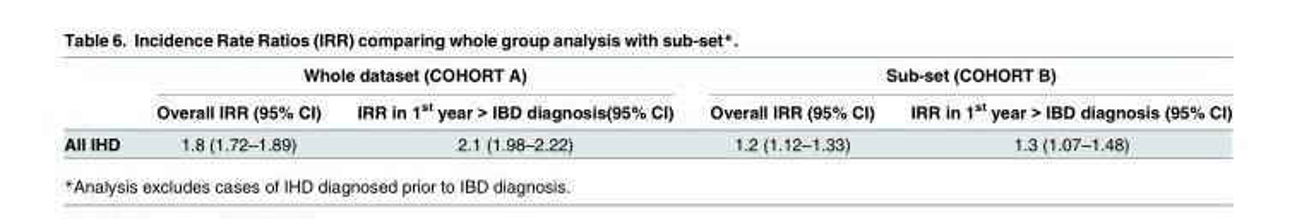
<table><thead><tr><td rowspan="2"></td><td colspan="2">Whole dataset (COHORT A)</td><td colspan="2">Sub-set (COHORT B)</td></tr><tr><td>Overall IRR (95% CI)</td><td>IRR in 1<sup>st</sup> year &gt; IBD diagnosis(95% CI)</td><td>Overall IRR (95% CI)</td><td>IRR in 1<sup>st</sup> year &gt; IBD diagnosis (95% CI)</td></tr></thead><tbody><tr><td>All IHD</td><td>1.8 (1.72–1.89)</td><td>2.1 (1.98–2.22)</td><td>1.2 (1.12–1.33)</td><td>1.3 (1.07–1.48)</td></tr></tbody></table>